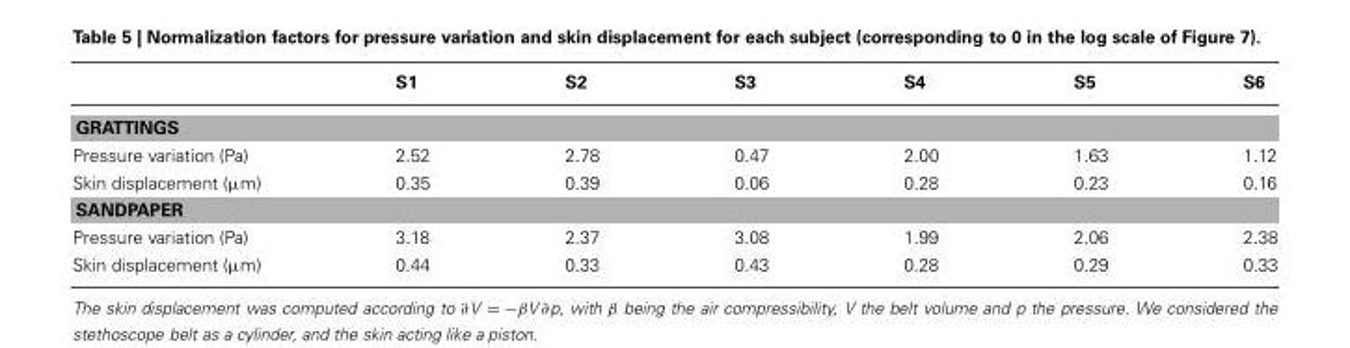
<table><thead><tr><td></td><td>S1</td><td>S2</td><td>S3</td><td>S4</td><td>S5</td><td>S6</td></tr></thead><tbody><tr><td colspan="7">GRATTINGS</td></tr><tr><td>Pressure variation (Pa)</td><td>2.52</td><td>2.78</td><td>0.47</td><td>2.00</td><td>1.63</td><td>1.12</td></tr><tr><td>Skin displacement (µm)</td><td>0.35</td><td>0.39</td><td>0.06</td><td>0.28</td><td>0.23</td><td>0.16</td></tr><tr><td colspan="7">SANDPAPER</td></tr><tr><td>Pressure variation (Pa)</td><td>3.18</td><td>2.37</td><td>3.08</td><td>1.99</td><td>2.06</td><td>2.38</td></tr><tr><td>Skin displacement (µm)</td><td>0.44</td><td>0.33</td><td>0.43</td><td>0.28</td><td>0.29</td><td>0.33</td></tr></tbody></table>